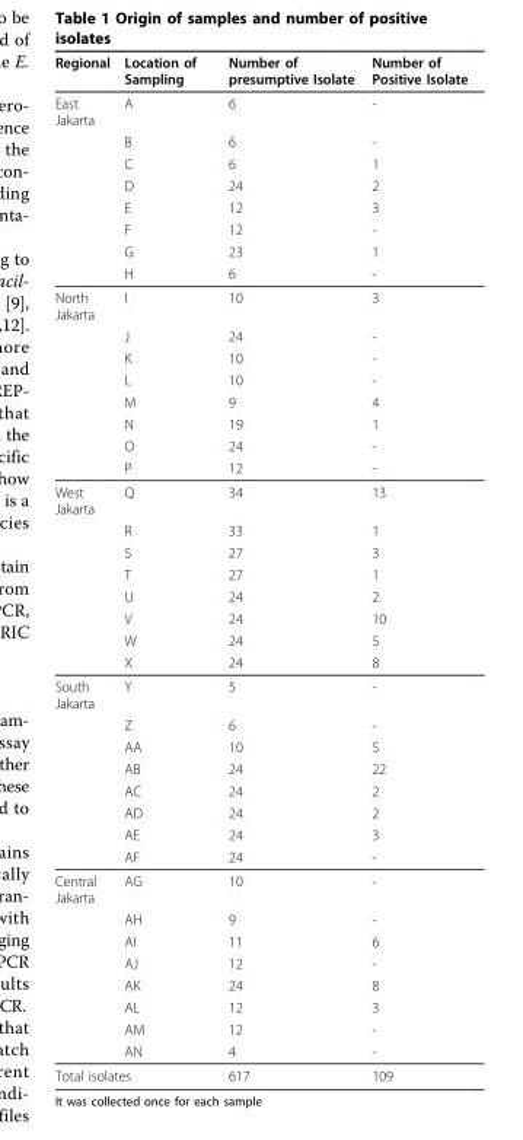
<table><thead><tr><td>Regional</td><td>Location of Sampling</td><td>Number of presumptive Isolate</td><td>Number of Positive Isolate</td></tr></thead><tbody><tr><td rowspan="8">East Jakarta</td><td>A</td><td>6</td><td>-</td></tr><tr><td>B</td><td>6</td><td>-</td></tr><tr><td>C</td><td>6</td><td>1</td></tr><tr><td>D</td><td>24</td><td>2</td></tr><tr><td>E</td><td>12</td><td>3</td></tr><tr><td>F</td><td>12</td><td>-</td></tr><tr><td>G</td><td>23</td><td>1</td></tr><tr><td>H</td><td>6</td><td>-</td></tr><tr><td rowspan="8">North Jakarta</td><td>I</td><td>10</td><td>3</td></tr><tr><td>J</td><td>24</td><td>-</td></tr><tr><td>K</td><td>10</td><td>-</td></tr><tr><td>L</td><td>10</td><td>-</td></tr><tr><td>M</td><td>9</td><td>4</td></tr><tr><td>N</td><td>19</td><td>1</td></tr><tr><td>O</td><td>24</td><td>-</td></tr><tr><td>P</td><td>12</td><td>-</td></tr><tr><td rowspan="8">West Jakarta</td><td>Q</td><td>34</td><td>13</td></tr><tr><td>R</td><td>33</td><td>1</td></tr><tr><td>S</td><td>27</td><td>3</td></tr><tr><td>T</td><td>27</td><td>1</td></tr><tr><td>U</td><td>24</td><td>2</td></tr><tr><td>V</td><td>24</td><td>10</td></tr><tr><td>W</td><td>24</td><td>5</td></tr><tr><td>X</td><td>24</td><td>8</td></tr><tr><td rowspan="8">South Jakarta</td><td>Y</td><td>5</td><td>-</td></tr><tr><td>Z</td><td>6</td><td>-</td></tr><tr><td>AA</td><td>10</td><td>5</td></tr><tr><td>AB</td><td>24</td><td>22</td></tr><tr><td>AC</td><td>24</td><td>2</td></tr><tr><td>AD</td><td>24</td><td>2</td></tr><tr><td>AE</td><td>24</td><td>3</td></tr><tr><td>AF</td><td>24</td><td>-</td></tr><tr><td rowspan="8">Central Jakarta</td><td>AG</td><td>10</td><td>-</td></tr><tr><td>AH</td><td>9</td><td>-</td></tr><tr><td>AI</td><td>11</td><td>6</td></tr><tr><td>AJ</td><td>12</td><td>-</td></tr><tr><td>AK</td><td>24</td><td>8</td></tr><tr><td>AL</td><td>12</td><td>3</td></tr><tr><td>AM</td><td>12</td><td>-</td></tr><tr><td>AN</td><td>4</td><td>-</td></tr><tr><td colspan="2">Total isolates</td><td>617</td><td>109</td></tr></tbody></table>